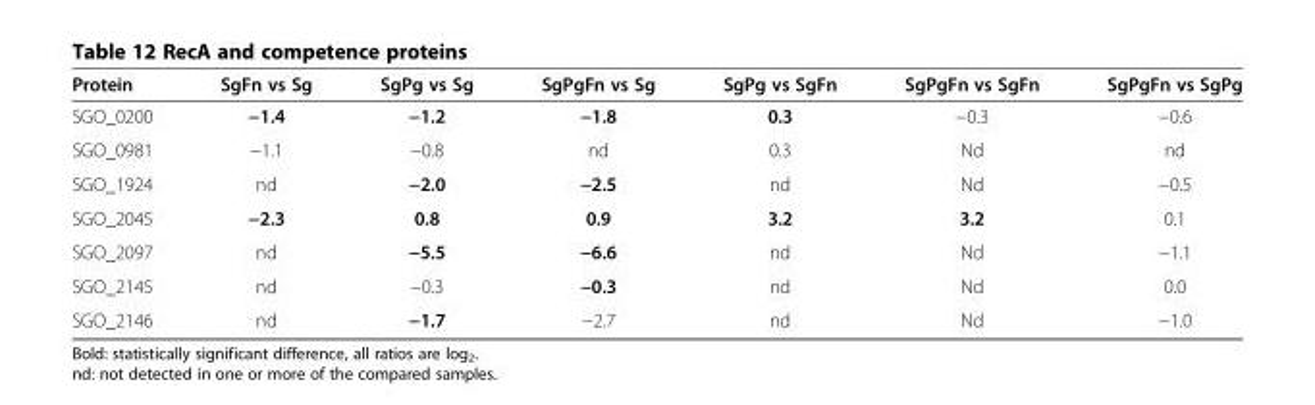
<table><thead><tr><td>Protein</td><td>SgFn vs Sg</td><td>SgPg vs Sg</td><td>SgPgFn vs Sg</td><td>SgPg vs SgFn</td><td>SgPgFn vs SgFn</td><td>SgPgFn vs SgPg</td></tr></thead><tbody><tr><td>SGO_0200</td><td>−1.4</td><td>−1.2</td><td>−1.8</td><td>0.3</td><td>−0.3</td><td>−0.6</td></tr><tr><td>SGO_0981</td><td>−1.1</td><td>−0.8</td><td>nd</td><td>0.3</td><td>Nd</td><td>nd</td></tr><tr><td>SGO_1924</td><td>nd</td><td>−2.0</td><td>−2.5</td><td>nd</td><td>Nd</td><td>−0.5</td></tr><tr><td>SGO_2045</td><td>−2.3</td><td>0.8</td><td>0.9</td><td>3.2</td><td>3.2</td><td>0.1</td></tr><tr><td>SGO_2097</td><td>nd</td><td>−5.5</td><td>−6.6</td><td>nd</td><td>Nd</td><td>−1.1</td></tr><tr><td>SGO_2145</td><td>nd</td><td>−0.3</td><td>−0.3</td><td>nd</td><td>Nd</td><td>0.0</td></tr><tr><td>SGO_2146</td><td>nd</td><td>−1.7</td><td>−2.7</td><td>nd</td><td>Nd</td><td>−1.0</td></tr></tbody></table>